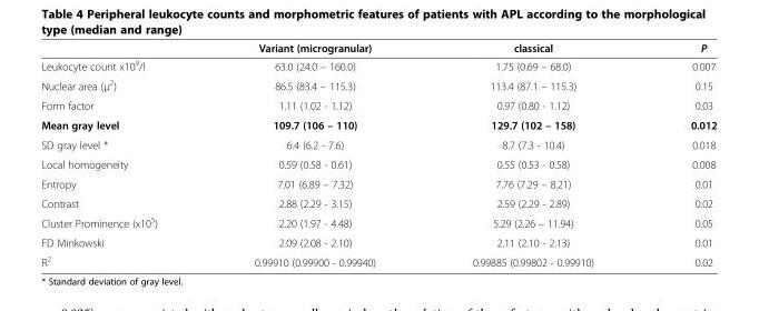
<table><thead><tr><td></td><td>Variant (microgranular)</td><td>classical</td><td>P</td></tr></thead><tbody><tr><td>Leukocyte count x10<sup>9</sup>/l</td><td>63.0 (24.0 – 160.0)</td><td>1.75 (0.69 – 68.0)</td><td>0.007</td></tr><tr><td>Nuclear area (μ<sup>2</sup>)</td><td>86.5 (83.4 – 115.3)</td><td>113.4 (87.1 – 115.3)</td><td>0.15</td></tr><tr><td>Form factor</td><td>1.11 (1.02 - 1.12)</td><td>0.97 (0.80 - 1.12)</td><td>0.03</td></tr><tr><td>Mean gray level</td><td>109.7 (106 – 110)</td><td>129.7 (102 – 158)</td><td>0.012</td></tr><tr><td>SD gray level *</td><td>6.4 (6.2 - 7.6)</td><td>8.7 (7.3 - 10.4)</td><td>0.018</td></tr><tr><td>Local homogeneity</td><td>0.59 (0.58 - 0.61)</td><td>0.55 (0.53 - 0.58)</td><td>0.008</td></tr><tr><td>Entropy</td><td>7.01 (6.89 – 7.32)</td><td>7.76 (7.29 – 8.21)</td><td>0.01</td></tr><tr><td>Contrast</td><td>2.88 (2.29 - 3.15)</td><td>2.59 (2.29 - 2.89)</td><td>0.02</td></tr><tr><td>Cluster Prominence (x10<sup>5</sup>)</td><td>2.20 (1.97 - 4.48)</td><td>5.29 (2.26 – 11.94)</td><td>0.05</td></tr><tr><td>FD Minkowski</td><td>2.09 (2.08 - 2.10)</td><td>2.11 (2.10 - 2.13)</td><td>0.01</td></tr><tr><td>R<sup>2</sup></td><td>0.99910 (0.99900 - 0.99940)</td><td>0.99885 (0.99802 - 0.99910)</td><td>0.02</td></tr></tbody></table>